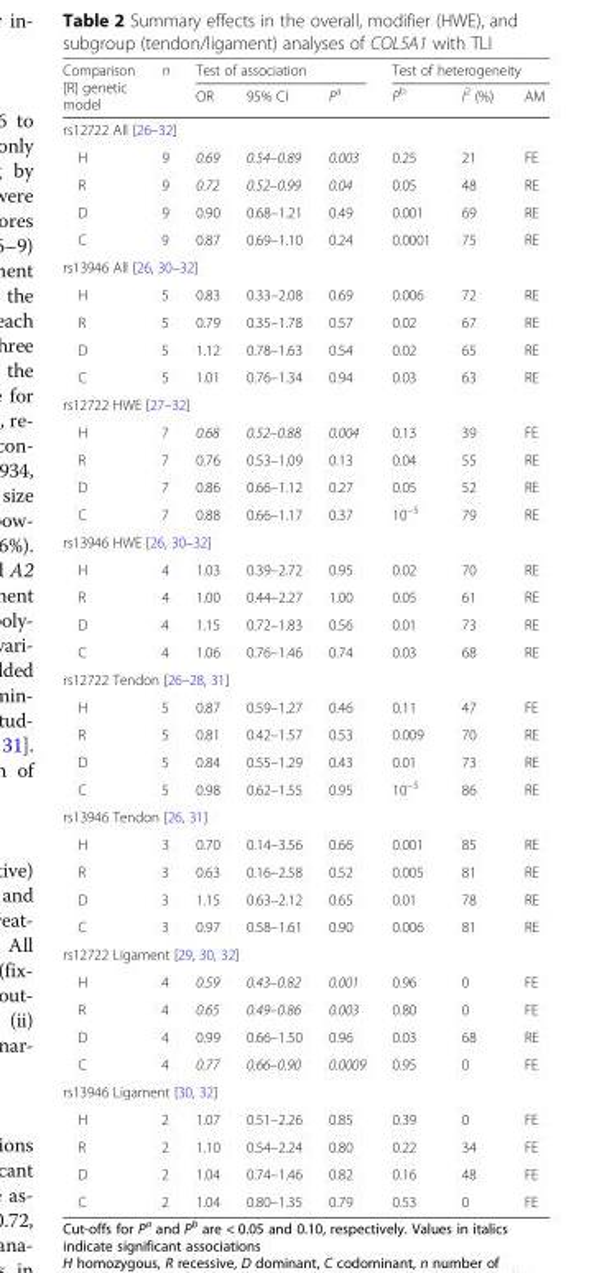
<table><thead><tr><td rowspan="2">Comparison [R] genetic model</td><td rowspan="2">n</td><td colspan="3">Test of association</td><td colspan="3">Test of heterogeneity</td></tr><tr><td>OR</td><td>95% CI</td><td>P<sup>a</sup></td><td>P<sup>b</sup></td><td>I<sup>2</sup> (%)</td><td>AM</td></tr></thead><tbody><tr><td colspan="8">rs12722 All [26–32]</td></tr><tr><td>H</td><td>9</td><td>0.69</td><td>0.54–0.89</td><td>0.003</td><td>0.25</td><td>21</td><td>FE</td></tr><tr><td>R</td><td>9</td><td>0.72</td><td>0.52–0.99</td><td>0.04</td><td>0.05</td><td>48</td><td>RE</td></tr><tr><td>D</td><td>9</td><td>0.90</td><td>0.68–1.21</td><td>0.49</td><td>0.001</td><td>69</td><td>RE</td></tr><tr><td>C</td><td>9</td><td>0.87</td><td>0.69–1.10</td><td>0.24</td><td>0.0001</td><td>75</td><td>RE</td></tr><tr><td colspan="8">rs13946 All [26, 30–32]</td></tr><tr><td>H</td><td>5</td><td>0.83</td><td>0.33–2.08</td><td>0.69</td><td>0.006</td><td>72</td><td>RE</td></tr><tr><td>R</td><td>5</td><td>0.79</td><td>0.35–1.78</td><td>0.57</td><td>0.02</td><td>67</td><td>RE</td></tr><tr><td>D</td><td>5</td><td>1.12</td><td>0.78–1.63</td><td>0.54</td><td>0.02</td><td>65</td><td>RE</td></tr><tr><td>C</td><td>5</td><td>1.01</td><td>0.76–1.34</td><td>0.94</td><td>0.03</td><td>63</td><td>RE</td></tr><tr><td colspan="8">rs12722 HWE [27–32]</td></tr><tr><td>H</td><td>7</td><td>0.68</td><td>0.52–0.88</td><td>0.004</td><td>0.13</td><td>39</td><td>FE</td></tr><tr><td>R</td><td>7</td><td>0.76</td><td>0.53–1.09</td><td>0.13</td><td>0.04</td><td>55</td><td>RE</td></tr><tr><td>D</td><td>7</td><td>0.86</td><td>0.66–1.12</td><td>0.27</td><td>0.05</td><td>52</td><td>RE</td></tr><tr><td>C</td><td>7</td><td>0.88</td><td>0.66–1.17</td><td>0.37</td><td>10<sup>−5</sup></td><td>79</td><td>RE</td></tr><tr><td colspan="8">rs13946 HWE [26, 30–32]</td></tr><tr><td>H</td><td>4</td><td>1.03</td><td>0.39–2.72</td><td>0.95</td><td>0.02</td><td>70</td><td>RE</td></tr><tr><td>R</td><td>4</td><td>1.00</td><td>0.44–2.27</td><td>1.00</td><td>0.05</td><td>61</td><td>RE</td></tr><tr><td>D</td><td>4</td><td>1.15</td><td>0.72–1.83</td><td>0.56</td><td>0.01</td><td>73</td><td>RE</td></tr><tr><td>C</td><td>4</td><td>1.06</td><td>0.76–1.46</td><td>0.74</td><td>0.03</td><td>68</td><td>RE</td></tr><tr><td colspan="8">rs12722 Tendon [26–28, 31]</td></tr><tr><td>H</td><td>5</td><td>0.87</td><td>0.59–1.27</td><td>0.46</td><td>0.11</td><td>47</td><td>FE</td></tr><tr><td>R</td><td>5</td><td>0.81</td><td>0.42–1.57</td><td>0.53</td><td>0.009</td><td>70</td><td>RE</td></tr><tr><td>D</td><td>5</td><td>0.84</td><td>0.55–1.29</td><td>0.43</td><td>0.01</td><td>73</td><td>RE</td></tr><tr><td>C</td><td>5</td><td>0.98</td><td>0.62–1.55</td><td>0.95</td><td>10<sup>−5</sup></td><td>86</td><td>RE</td></tr><tr><td colspan="8">rs13946 Tendon [26, 31]</td></tr><tr><td>H</td><td>3</td><td>0.70</td><td>0.14–3.56</td><td>0.66</td><td>0.001</td><td>85</td><td>RE</td></tr><tr><td>R</td><td>3</td><td>0.63</td><td>0.16–2.58</td><td>0.52</td><td>0.005</td><td>81</td><td>RE</td></tr><tr><td>D</td><td>3</td><td>1.15</td><td>0.63–2.12</td><td>0.65</td><td>0.01</td><td>78</td><td>RE</td></tr><tr><td>C</td><td>3</td><td>0.97</td><td>0.58–1.61</td><td>0.90</td><td>0.006</td><td>81</td><td>RE</td></tr><tr><td colspan="8">rs12722 Ligament [29, 30, 32]</td></tr><tr><td>H</td><td>4</td><td>0.59</td><td>0.43–0.82</td><td>0.001</td><td>0.96</td><td>0</td><td>FE</td></tr><tr><td>R</td><td>4</td><td>0.65</td><td>0.49–0.86</td><td>0.003</td><td>0.80</td><td>0</td><td>FE</td></tr><tr><td>D</td><td>4</td><td>0.99</td><td>0.66–1.50</td><td>0.96</td><td>0.03</td><td>68</td><td>RE</td></tr><tr><td>C</td><td>4</td><td>0.77</td><td>0.66–0.90</td><td>0.0009</td><td>0.95</td><td>0</td><td>FE</td></tr><tr><td colspan="8">rs13946 Ligament [30, 32]</td></tr><tr><td>H</td><td>2</td><td>1.07</td><td>0.51–2.26</td><td>0.85</td><td>0.39</td><td>0</td><td>FE</td></tr><tr><td>R</td><td>2</td><td>1.10</td><td>0.54–2.24</td><td>0.80</td><td>0.22</td><td>34</td><td>FE</td></tr><tr><td>D</td><td>2</td><td>1.04</td><td>0.74–1.46</td><td>0.82</td><td>0.16</td><td>48</td><td>FE</td></tr><tr><td>C</td><td>2</td><td>1.04</td><td>0.80–1.35</td><td>0.79</td><td>0.53</td><td>0</td><td>FE</td></tr></tbody></table>